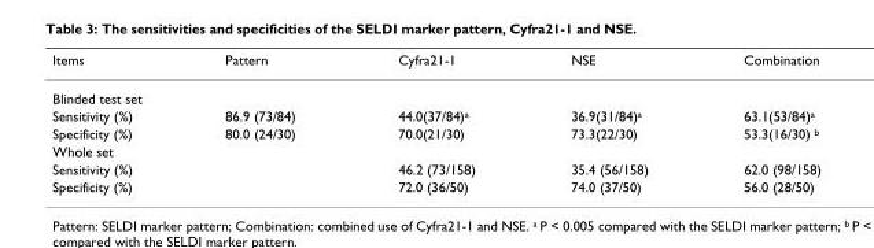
<table><thead><tr><td>Items</td><td>Pattern</td><td>Cyfra21-1</td><td>NSE</td><td>Combination</td></tr></thead><tbody><tr><td colspan="5">Blinded test set</td></tr><tr><td>Sensitivity (%)</td><td>86.9 (73/84)</td><td>44.0(37/84)a</td><td>36.9(31/84)a</td><td>63.1(53/84)a</td></tr><tr><td>Specificity (%)</td><td>80.0 (24/30)</td><td>70.0(21/30)</td><td>73.3(22/30)</td><td>53.3(16/30) b</td></tr><tr><td colspan="5">Whole set</td></tr><tr><td>Sensitivity (%)</td><td></td><td>46.2 (73/158)</td><td>35.4 (56/158)</td><td>62.0 (98/158)</td></tr><tr><td>Specificity (%)</td><td></td><td>72.0 (36/50)</td><td>74.0 (37/50)</td><td>56.0 (28/50)</td></tr></tbody></table>